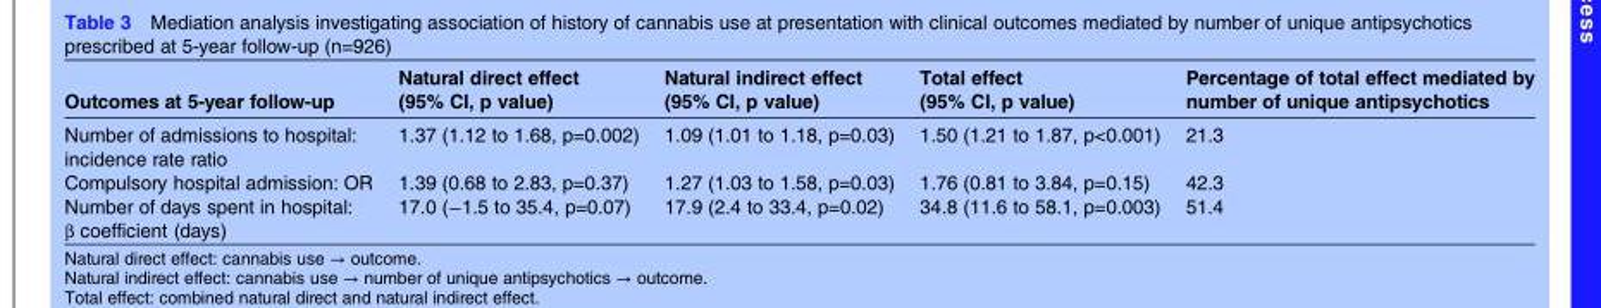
<table><thead><tr><td>Outcomes at 5-year follow-up</td><td>Natural direct effect (95% CI, p value)</td><td>Natural indirect effect (95% CI, p value)</td><td>Total effect (95% CI, p value)</td><td>Percentage of total effect mediated by number of unique antipsychotics</td></tr></thead><tbody><tr><td>Number of admissions to hospital: incidence rate ratio</td><td>1.37 (1.12 to 1.68, p=0.002)</td><td>1.09 (1.01 to 1.18, p=0.03)</td><td>1.50 (1.21 to 1.87, p&lt;0.001)</td><td>21.3</td></tr><tr><td>Compulsory hospital admission: OR</td><td>1.39 (0.68 to 2.83, p=0.37)</td><td>1.27 (1.03 to 1.58, p=0.03)</td><td>1.76 (0.81 to 3.84, p=0.15)</td><td>42.3</td></tr><tr><td>Number of days spent in hospital: β coefficient (days)</td><td>17.0 (−1.5 to 35.4, p=0.07)</td><td>17.9 (2.4 to 33.4, p=0.02)</td><td>34.8 (11.6 to 58.1, p=0.003)</td><td>51.4</td></tr></tbody></table>